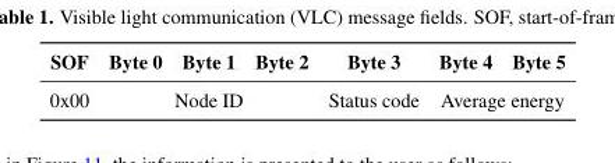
<table><thead><tr><td>SOF</td><td>Byte 0</td><td>Byte 1</td><td>Byte 2</td><td>Byte 3</td><td>Byte 4</td><td>Byte 5</td></tr></thead><tbody><tr><td>0x00</td><td></td><td>Node ID</td><td></td><td>Status code</td><td>Average</td><td>energy</td></tr></tbody></table>